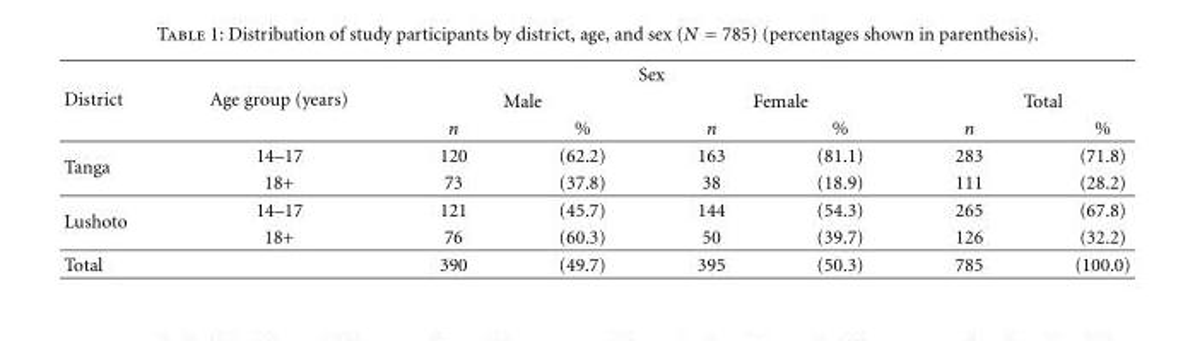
<table><thead><tr><td rowspan="3">District</td><td rowspan="3">Age group (years)</td><td colspan="4">Sex</td><td></td><td></td></tr><tr><td colspan="2">Male</td><td colspan="2">Female</td><td colspan="2">Total</td></tr><tr><td>n</td><td>%</td><td>n</td><td>%</td><td>n</td><td>%</td></tr></thead><tbody><tr><td rowspan="2">Tanga</td><td>14–17</td><td>120</td><td>(62.2)</td><td>163</td><td>(81.1)</td><td>283</td><td>(71.8)</td></tr><tr><td>18+</td><td>73</td><td>(37.8)</td><td>38</td><td>(18.9)</td><td>111</td><td>(28.2)</td></tr><tr><td rowspan="2">Lushoto</td><td>14–17</td><td>121</td><td>(45.7)</td><td>144</td><td>(54.3)</td><td>265</td><td>(67.8)</td></tr><tr><td>18+</td><td>76</td><td>(60.3)</td><td>50</td><td>(39.7)</td><td>126</td><td>(32.2)</td></tr><tr><td>Total</td><td></td><td>390</td><td>(49.7)</td><td>395</td><td>(50.3)</td><td>785</td><td>(100.0)</td></tr></tbody></table>